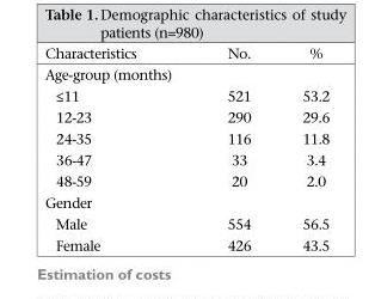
<table><thead><tr><td>Characteristics</td><td>No.</td><td>%</td></tr></thead><tbody><tr><td colspan="3">Age-group (months)</td></tr><tr><td>≤11</td><td>521</td><td>53.2</td></tr><tr><td>12-23</td><td>290</td><td>29.6</td></tr><tr><td>24-35</td><td>116</td><td>11.8</td></tr><tr><td>36-47</td><td>33</td><td>3.4</td></tr><tr><td>48-59</td><td>20</td><td>2.0</td></tr><tr><td colspan="3">Gender</td></tr><tr><td>Male</td><td>554</td><td>56.5</td></tr><tr><td>Female</td><td>426</td><td>43.5</td></tr></tbody></table>